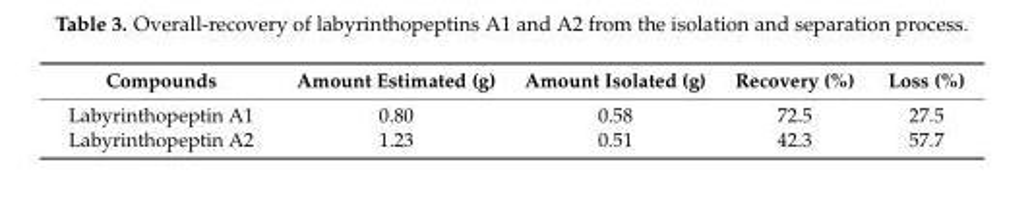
<table><thead><tr><td>Compounds</td><td>Amount Estimated (g)</td><td>Amount Isolated (g)</td><td>Recovery (%)</td><td>Loss (%)</td></tr></thead><tbody><tr><td>Labyrinthopeptin A1</td><td>0.80</td><td>0.58</td><td>72.5</td><td>27.5</td></tr><tr><td>Labyrinthopeptin A2</td><td>1.23</td><td>0.51</td><td>42.3</td><td>57.7</td></tr></tbody></table>